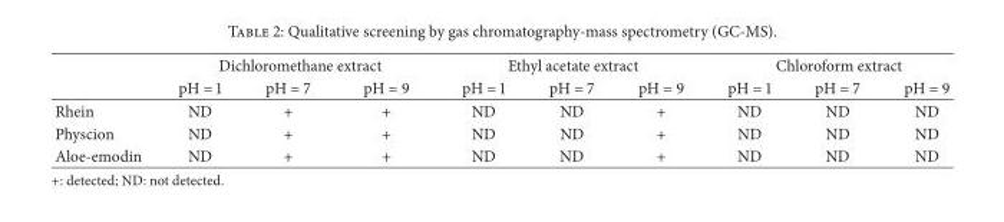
<table><thead><tr><td rowspan="2"></td><td colspan="3">Dichloromethane extract</td><td colspan="3">Ethyl acetate extract</td><td colspan="3">Chloroform extract</td></tr><tr><td>pH = 1</td><td>pH = 7</td><td>pH = 9</td><td>pH = 1</td><td>pH = 7</td><td>pH = 9</td><td>pH = 1</td><td>pH = 7</td><td>pH = 9</td></tr></thead><tbody><tr><td>Rhein</td><td>ND</td><td>+</td><td>+</td><td>ND</td><td>ND</td><td>+</td><td>ND</td><td>ND</td><td>ND</td></tr><tr><td>Physcion</td><td>ND</td><td>+</td><td>+</td><td>ND</td><td>ND</td><td>+</td><td>ND</td><td>ND</td><td>ND</td></tr><tr><td>Aloe-emodin</td><td>ND</td><td>+</td><td>+</td><td>ND</td><td>ND</td><td>+</td><td>ND</td><td>ND</td><td>ND</td></tr></tbody></table>